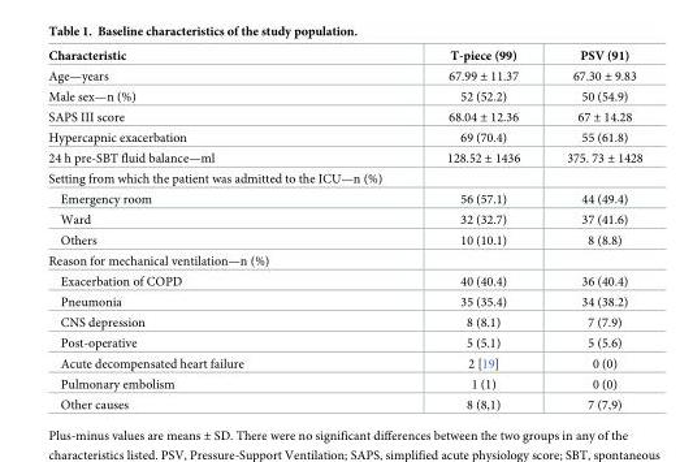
<table><thead><tr><td>Characteristic</td><td>T-piece (99)</td><td>PSV (91)</td></tr></thead><tbody><tr><td>Age—years</td><td>67.99 ± 11.37</td><td>67.30 ± 9.83</td></tr><tr><td>Male sex—n (%)</td><td>52 (52.2)</td><td>50 (54.9)</td></tr><tr><td>SAPS III score</td><td>68.04 ± 12.36</td><td>67 ± 14.28</td></tr><tr><td>Hypercapnic exacerbation</td><td>69 (70.4)</td><td>55 (61.8)</td></tr><tr><td>24 h pre-SBT fluid balance—ml</td><td>128.52 ± 1436</td><td>375. 73 ± 1428</td></tr><tr><td colspan="3">Setting from which the patient was admitted to the ICU—n (%)</td></tr><tr><td>Emergency room</td><td>56 (57.1)</td><td>44 (49.4)</td></tr><tr><td>Ward</td><td>32 (32.7)</td><td>37 (41.6)</td></tr><tr><td>Others</td><td>10 (10.1)</td><td>8 (8.8)</td></tr><tr><td colspan="3">Reason for mechanical ventilation—n (%)</td></tr><tr><td>Exacerbation of COPD</td><td>40 (40.4)</td><td>36 (40.4)</td></tr><tr><td>Pneumonia</td><td>35 (35.4)</td><td>34 (38.2)</td></tr><tr><td>CNS depression</td><td>8 (8.1)</td><td>7 (7.9)</td></tr><tr><td>Post-operative</td><td>5 (5.1)</td><td>5 (5.6)</td></tr><tr><td>Acute decompensated heart failure</td><td>2 [19]</td><td>0 (0)</td></tr><tr><td>Pulmonary embolism</td><td>1 (1)</td><td>0 (0)</td></tr><tr><td>Other causes</td><td>8 (8,1)</td><td>7 (7,9)</td></tr></tbody></table>